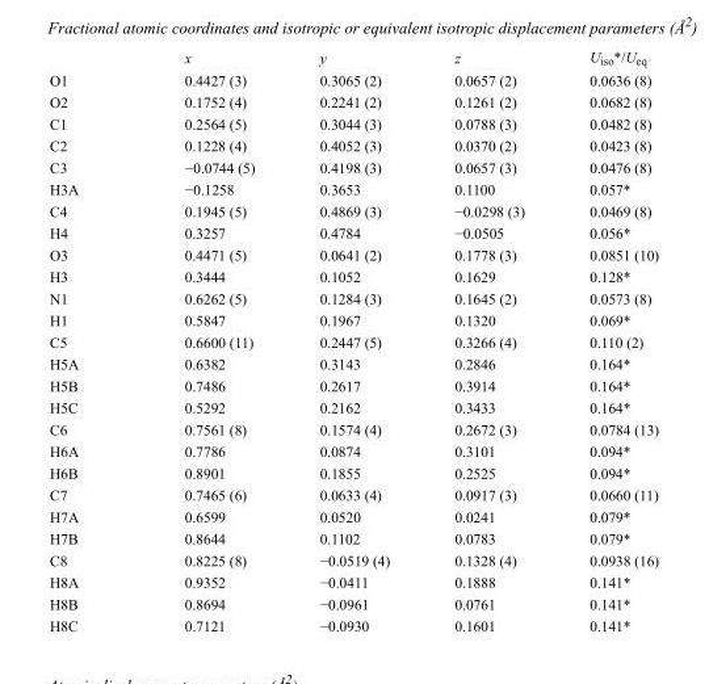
<table><thead><tr><td></td><td>x</td><td>y</td><td>z</td><td>U<sub>iso</sub>*/U<sub>eq</sub></td></tr></thead><tbody><tr><td>O1</td><td>0.4427 (3)</td><td>0.3065 (2)</td><td>0.0657 (2)</td><td>0.0636 (8)</td></tr><tr><td>O2</td><td>0.1752 (4)</td><td>0.2241 (2)</td><td>0.1261 (2)</td><td>0.0682 (8)</td></tr><tr><td>C1</td><td>0.2564 (5)</td><td>0.3044 (3)</td><td>0.0788 (3)</td><td>0.0482 (8)</td></tr><tr><td>C2</td><td>0.1228 (4)</td><td>0.4052 (3)</td><td>0.0370 (2)</td><td>0.0423 (8)</td></tr><tr><td>C3</td><td>−0.0744 (5)</td><td>0.4198 (3)</td><td>0.0657 (3)</td><td>0.0476 (8)</td></tr><tr><td>H3A</td><td>−0.1258</td><td>0.3653</td><td>0.1100</td><td>0.057*</td></tr><tr><td>C4</td><td>0.1945 (5)</td><td>0.4869 (3)</td><td>−0.0298 (3)</td><td>0.0469 (8)</td></tr><tr><td>H4</td><td>0.3257</td><td>0.4784</td><td>−0.0505</td><td>0.056*</td></tr><tr><td>O3</td><td>0.4471 (5)</td><td>0.0641 (2)</td><td>0.1778 (3)</td><td>0.0851 (10)</td></tr><tr><td>H3</td><td>0.3444</td><td>0.1052</td><td>0.1629</td><td>0.128*</td></tr><tr><td>N1</td><td>0.6262 (5)</td><td>0.1284 (3)</td><td>0.1645 (2)</td><td>0.0573 (8)</td></tr><tr><td>H1</td><td>0.5847</td><td>0.1967</td><td>0.1320</td><td>0.069*</td></tr><tr><td>C5</td><td>0.6600 (11)</td><td>0.2447 (5)</td><td>0.3266 (4)</td><td>0.110 (2)</td></tr><tr><td>H5A</td><td>0.6382</td><td>0.3143</td><td>0.2846</td><td>0.164*</td></tr><tr><td>H5B</td><td>0.7486</td><td>0.2617</td><td>0.3914</td><td>0.164*</td></tr><tr><td>H5C</td><td>0.5292</td><td>0.2162</td><td>0.3433</td><td>0.164*</td></tr><tr><td>C6</td><td>0.7561 (8)</td><td>0.1574 (4)</td><td>0.2672 (3)</td><td>0.0784 (13)</td></tr><tr><td>H6A</td><td>0.7786</td><td>0.0874</td><td>0.3101</td><td>0.094*</td></tr><tr><td>H6B</td><td>0.8901</td><td>0.1855</td><td>0.2525</td><td>0.094*</td></tr><tr><td>C7</td><td>0.7465 (6)</td><td>0.0633 (4)</td><td>0.0917 (3)</td><td>0.0660 (11)</td></tr><tr><td>H7A</td><td>0.6599</td><td>0.0520</td><td>0.0241</td><td>0.079*</td></tr><tr><td>H7B</td><td>0.8644</td><td>0.1102</td><td>0.0783</td><td>0.079*</td></tr><tr><td>C8</td><td>0.8225 (8)</td><td>−0.0519 (4)</td><td>0.1328 (4)</td><td>0.0938 (16)</td></tr><tr><td>H8A</td><td>0.9352</td><td>−0.0411</td><td>0.1888</td><td>0.141*</td></tr><tr><td>H8B</td><td>0.8694</td><td>−0.0961</td><td>0.0761</td><td>0.141*</td></tr><tr><td>H8C</td><td>0.7121</td><td>−0.0930</td><td>0.1601</td><td>0.141*</td></tr></tbody></table>